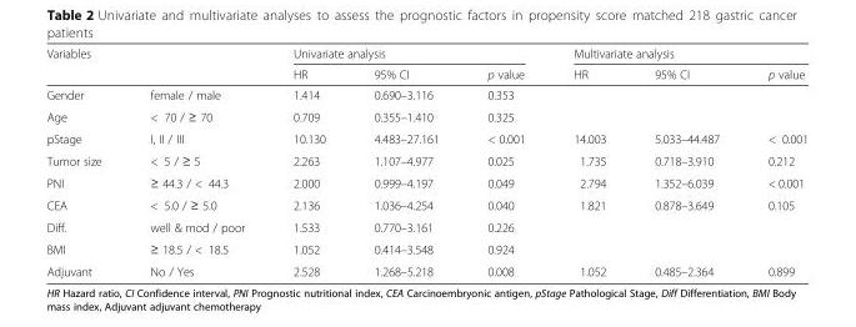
<table><thead><tr><td rowspan="2" colspan="2">Variables</td><td colspan="3">Univariate analysis</td><td colspan="3">Multivariate analysis</td></tr><tr><td rowspan="2">HR 1.414</td><td rowspan="2">95% CI 0.690–3.116</td><td rowspan="2">p value 0.353</td><td rowspan="2">HR</td><td rowspan="2">95% CI</td><td rowspan="2">p value</td></tr><tr><td>Gender</td><td>female / male</td></tr></thead><tbody><tr><td>Age</td><td>&lt; 70 / ≥ 70</td><td>0.709</td><td>0.355–1.410</td><td>0.325</td><td></td><td></td><td></td></tr><tr><td>pStage</td><td>I, II / III</td><td>10.130</td><td>4.483–27.161</td><td>&lt; 0.001</td><td>14.003</td><td>5.033–44.487</td><td>&lt; 0.001</td></tr><tr><td>Tumor size</td><td>&lt; 5 / ≥ 5</td><td>2.263</td><td>1.107–4.977</td><td>0.025</td><td>1.735</td><td>0.718–3.910</td><td>0.212</td></tr><tr><td>PNI</td><td>≥ 44.3 / &lt; 44.3</td><td>2.000</td><td>0.999–4.197</td><td>0.049</td><td>2.794</td><td>1.352–6.039</td><td>&lt; 0.001</td></tr><tr><td>CEA</td><td>&lt; 5.0 / ≥ 5.0</td><td>2.136</td><td>1.036–4.254</td><td>0.040</td><td>1.821</td><td>0.878–3.649</td><td>0.105</td></tr><tr><td>Diff.</td><td>well &amp; mod / poor</td><td>1.533</td><td>0.770–3.161</td><td>0.226</td><td></td><td></td><td></td></tr><tr><td>BMI</td><td>≥ 18.5 / &lt; 18.5</td><td>1.052</td><td>0.414–3.548</td><td>0.924</td><td></td><td></td><td></td></tr><tr><td>Adjuvant</td><td>No / Yes</td><td>2.528</td><td>1.268–5.218</td><td>0.008</td><td>1.052</td><td>0.485–2.364</td><td>0.899</td></tr></tbody></table>